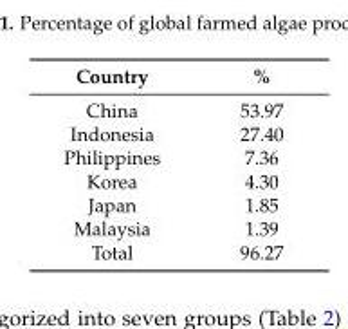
<table><thead><tr><td>Country</td><td>%</td></tr></thead><tbody><tr><td>China</td><td>53.97</td></tr><tr><td>Indonesia</td><td>27.40</td></tr><tr><td>Philippines</td><td>7.36</td></tr><tr><td>Korea</td><td>4.30</td></tr><tr><td>Japan</td><td>1.85</td></tr><tr><td>Malaysia</td><td>1.39</td></tr><tr><td>Total</td><td>96.27</td></tr></tbody></table>